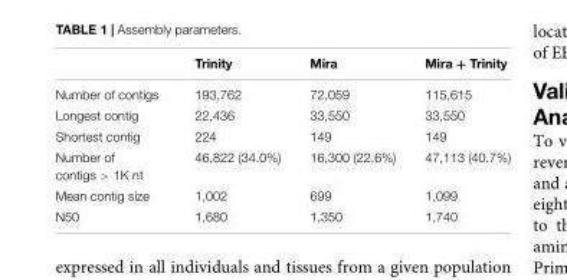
<table><thead><tr><td></td><td>Trinity</td><td>Mira</td><td>Mira + Trinity</td></tr></thead><tbody><tr><td>Number of contigs</td><td>193,762</td><td>72,059</td><td>115,615</td></tr><tr><td>Longest contig</td><td>22,436</td><td>33,550</td><td>33,550</td></tr><tr><td>Shortest contig</td><td>224</td><td>149</td><td>149</td></tr><tr><td>Number of contigs &gt; 1K nt</td><td>46,822 (34.0%)</td><td>16,300 (22.6%)</td><td>47,113 (40.7%)</td></tr><tr><td>Mean contig size</td><td>1,002</td><td>699</td><td>1,099</td></tr><tr><td>N50</td><td>1,680</td><td>1,350</td><td>1,740</td></tr></tbody></table>